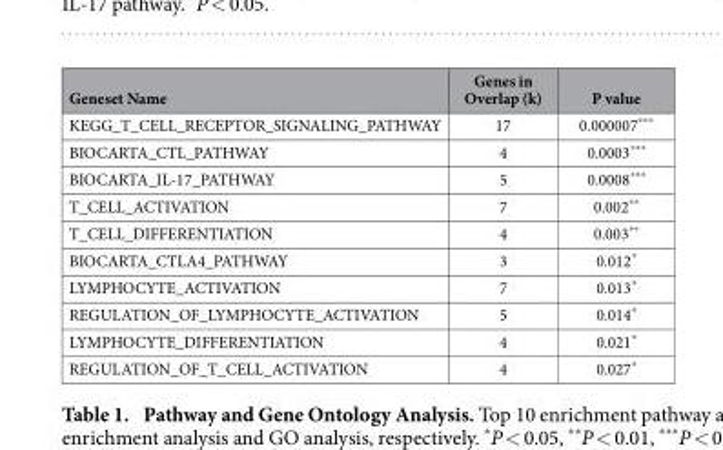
<table><thead><tr><td>Geneset Name</td><td>Genes in Overlap (k)</td><td>P value</td></tr></thead><tbody><tr><td>KEGG_T_CELL_RECEPTOR_SIGNALING_PATHWAY</td><td>17</td><td>0.000007***</td></tr><tr><td>BIOCARTA_CTL_PATHWAY</td><td>4</td><td>0.0003***</td></tr><tr><td>BIOCARTA_IL-17_PATHWAY</td><td>5</td><td>0.0008***</td></tr><tr><td>T_CELL_ACTIVATION</td><td>7</td><td>0.002**</td></tr><tr><td>T_CELL_DIFFERENTIATION</td><td>4</td><td>0.003**</td></tr><tr><td>BIOCARTA_CTLA4_PATHWAY</td><td>3</td><td>0.012*</td></tr><tr><td>LYMPHOCYTE_ACTIVATION</td><td>7</td><td>0.013*</td></tr><tr><td>REGULATION_OF_LYMPHOCYTE_ACTIVATION</td><td>5</td><td>0.014*</td></tr><tr><td>LYMPHOCYTE_DIFFERENTIATION</td><td>4</td><td>0.021*</td></tr><tr><td>REGULATION_OF_T_CELL_ACTIVATION</td><td>4</td><td>0.027*</td></tr></tbody></table>